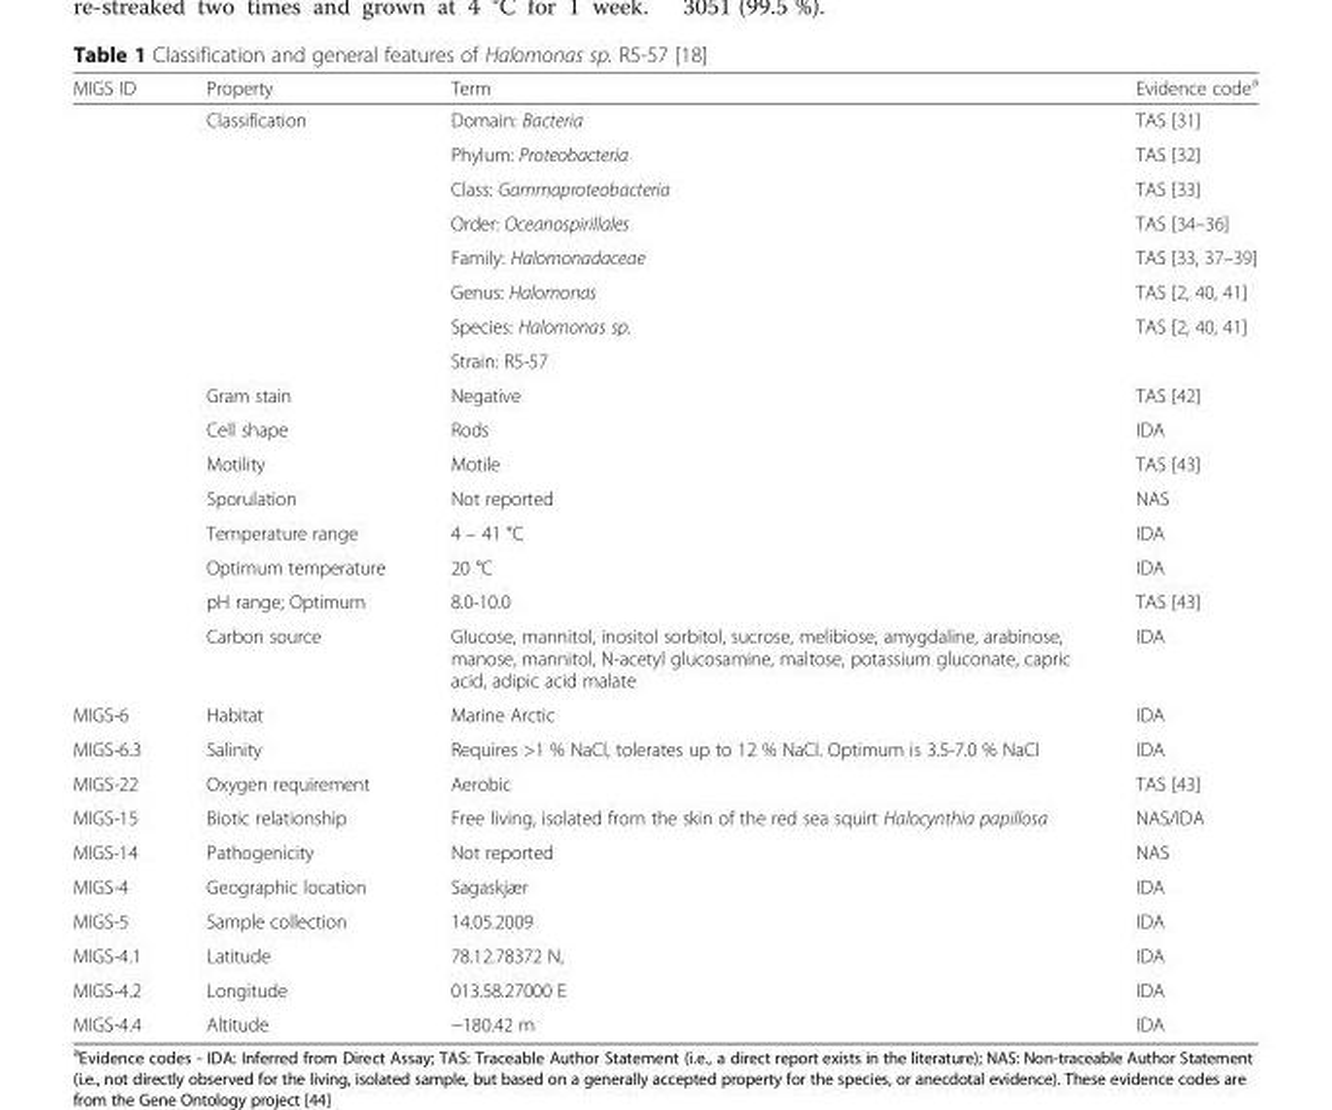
<table><thead><tr><td>MIGS ID</td><td>Property</td><td>Term</td><td>Evidence code<sup>a</sup></td></tr></thead><tbody><tr><td></td><td>Classification</td><td>Domain: Bacteria</td><td>TAS [31]</td></tr><tr><td></td><td></td><td>Phylum: Proteobacteria</td><td>TAS [32]</td></tr><tr><td></td><td></td><td>Class: Gammaproteobacteria</td><td>TAS [33]</td></tr><tr><td></td><td></td><td>Order: Oceanospirillales</td><td>TAS [34–36]</td></tr><tr><td></td><td></td><td>Family: Halomonadaceae</td><td>TAS [33, 37–39]</td></tr><tr><td></td><td></td><td>Genus: Halomonas</td><td>TAS [2, 40, 41]</td></tr><tr><td></td><td></td><td>Species: Halomonas sp.</td><td>TAS [2, 40, 41]</td></tr><tr><td></td><td></td><td>Strain: R5-57</td><td></td></tr><tr><td></td><td>Gram stain</td><td>Negative</td><td>TAS [42]</td></tr><tr><td></td><td>Cell shape</td><td>Rods</td><td>IDA</td></tr><tr><td></td><td>Motility</td><td>Motile</td><td>TAS [43]</td></tr><tr><td></td><td>Sporulation</td><td>Not reported</td><td>NAS</td></tr><tr><td></td><td>Temperature range</td><td>4 – 41 °C</td><td>IDA</td></tr><tr><td></td><td>Optimum temperature</td><td>20 °C</td><td>IDA</td></tr><tr><td></td><td>pH range; Optimum</td><td>8.0-10.0</td><td>TAS [43]</td></tr><tr><td></td><td>Carbon source</td><td>Glucose, mannitol, inositol sorbitol, sucrose, melibiose, amygdaline, arabinose, manose, mannitol, N-acetyl glucosamine, maltose, potassium gluconate, capric acid, adipic acid malate</td><td>IDA</td></tr><tr><td>MIGS-6</td><td>Habitat</td><td>Marine Arctic</td><td>IDA</td></tr><tr><td>MIGS-6.3</td><td>Salinity</td><td>Requires &gt;1 % NaCl, tolerates up to 12 % NaCl. Optimum is 3.5-7.0 % NaCl</td><td>IDA</td></tr><tr><td>MIGS-22</td><td>Oxygen requirement</td><td>Aerobic</td><td>TAS [43]</td></tr><tr><td>MIGS-15</td><td>Biotic relationship</td><td>Free living, isolated from the skin of the red sea squirt Halocynthia papillosa</td><td>NAS/IDA</td></tr><tr><td>MIGS-14</td><td>Pathogenicity</td><td>Not reported</td><td>NAS</td></tr><tr><td>MIGS-4</td><td>Geographic location</td><td>Sagaskjær</td><td>IDA</td></tr><tr><td>MIGS-5</td><td>Sample collection</td><td>14.05.2009</td><td>IDA</td></tr><tr><td>MIGS-4.1</td><td>Latitude</td><td>78.12.78372 N,</td><td>IDA</td></tr><tr><td>MIGS-4.2</td><td>Longitude</td><td>013.58.27000 E</td><td>IDA</td></tr><tr><td>MIGS-4.4</td><td>Altitude</td><td>−180.42 m</td><td>IDA</td></tr></tbody></table>